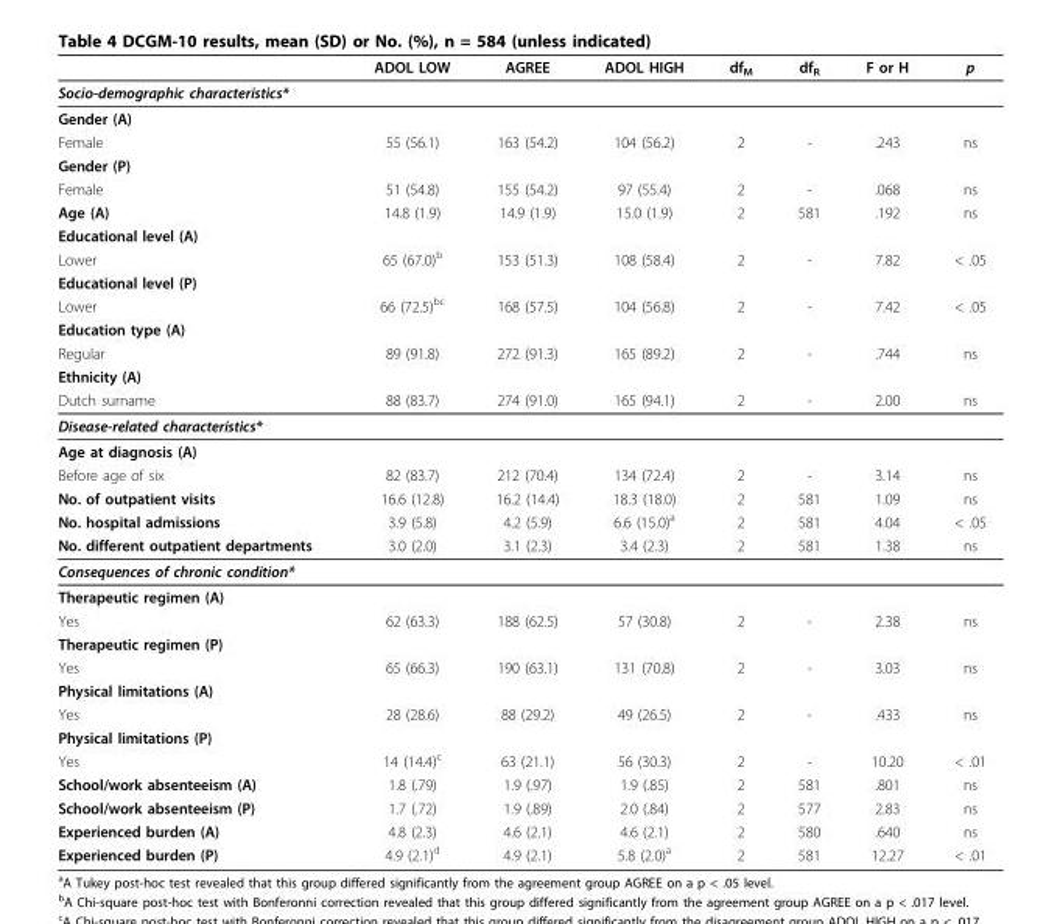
<table><thead><tr><td></td><td>ADOL LOW</td><td>AGREE</td><td>ADOL HIGH</td><td>df<sub>M</sub></td><td>df<sub>R</sub></td><td>F or H</td><td>p</td></tr></thead><tbody><tr><td colspan="8">Socio-demographic characteristics*</td></tr><tr><td colspan="8">Gender (A)</td></tr><tr><td>Female</td><td>55 (56.1)</td><td>163 (54.2)</td><td>104 (56.2)</td><td>2</td><td>-</td><td>.243</td><td>ns</td></tr><tr><td colspan="8">Gender (P)</td></tr><tr><td>Female</td><td>51 (54.8)</td><td>155 (54.2)</td><td>97 (55.4)</td><td>2</td><td>-</td><td>.068</td><td>ns</td></tr><tr><td>Age (A)</td><td>14.8 (1.9)</td><td>14.9 (1.9)</td><td>15.0 (1.9)</td><td>2</td><td>581</td><td>.192</td><td>ns</td></tr><tr><td colspan="8">Educational level (A)</td></tr><tr><td>Lower</td><td>65 (67.0)<sup>b</sup></td><td>153 (51.3)</td><td>108 (58.4)</td><td>2</td><td>-</td><td>7.82</td><td>&lt; .05</td></tr><tr><td colspan="8">Educational level (P)</td></tr><tr><td>Lower</td><td>66 (72.5)<sup>bc</sup></td><td>168 (57.5)</td><td>104 (56.8)</td><td>2</td><td>-</td><td>7.42</td><td>&lt; .05</td></tr><tr><td colspan="8">Education type (A)</td></tr><tr><td>Regular</td><td>89 (91.8)</td><td>272 (91.3)</td><td>165 (89.2)</td><td>2</td><td>-</td><td>.744</td><td>ns</td></tr><tr><td colspan="8">Ethnicity (A)</td></tr><tr><td>Dutch surname</td><td>88 (83.7)</td><td>274 (91.0)</td><td>165 (94.1)</td><td>2</td><td>-</td><td>2.00</td><td>ns</td></tr><tr><td colspan="8">Disease-related characteristics*</td></tr><tr><td colspan="8">Age at diagnosis (A)</td></tr><tr><td>Before age of six</td><td>82 (83.7)</td><td>212 (70.4)</td><td>134 (72.4)</td><td>2</td><td>-</td><td>3.14</td><td>ns</td></tr><tr><td>No. of outpatient visits</td><td>16.6 (12.8)</td><td>16.2 (14.4)</td><td>18.3 (18.0)</td><td>2</td><td>581</td><td>1.09</td><td>ns</td></tr><tr><td>No. hospital admissions</td><td>3.9 (5.8)</td><td>4.2 (5.9)</td><td>6.6 (15.0)<sup>a</sup></td><td>2</td><td>581</td><td>4.04</td><td>&lt; .05</td></tr><tr><td>No. different outpatient departments</td><td>3.0 (2.0)</td><td>3.1 (2.3)</td><td>3.4 (2.3)</td><td>2</td><td>581</td><td>1.38</td><td>ns</td></tr><tr><td colspan="8">Consequences of chronic condition*</td></tr><tr><td colspan="8">Therapeutic regimen (A)</td></tr><tr><td>Yes</td><td>62 (63.3)</td><td>188 (62.5)</td><td>57 (30.8)</td><td>2</td><td>-</td><td>2.38</td><td>ns</td></tr><tr><td colspan="8">Therapeutic regimen (P)</td></tr><tr><td>Yes</td><td>65 (66.3)</td><td>190 (63.1)</td><td>131 (70.8)</td><td>2</td><td>-</td><td>3.03</td><td>ns</td></tr><tr><td colspan="8">Physical limitations (A)</td></tr><tr><td>Yes</td><td>28 (28.6)</td><td>88 (29.2)</td><td>49 (26.5)</td><td>2</td><td>-</td><td>.433</td><td>ns</td></tr><tr><td colspan="8">Physical limitations (P)</td></tr><tr><td>Yes</td><td>14 (14.4)<sup>c</sup></td><td>63 (21.1)</td><td>56 (30.3)</td><td>2</td><td>-</td><td>10.20</td><td>&lt; .01</td></tr><tr><td>School/work absenteeism (A)</td><td>1.8 (.79)</td><td>1.9 (.97)</td><td>1.9 (.85)</td><td>2</td><td>581</td><td>.801</td><td>ns</td></tr><tr><td>School/work absenteeism (P)</td><td>1.7 (.72)</td><td>1.9 (.89)</td><td>2.0 (.84)</td><td>2</td><td>577</td><td>2.83</td><td>ns</td></tr><tr><td>Experienced burden (A)</td><td>4.8 (2.3)</td><td>4.6 (2.1)</td><td>4.6 (2.1)</td><td>2</td><td>580</td><td>.640</td><td>ns</td></tr><tr><td>Experienced burden (P)</td><td>4.9 (2.1)<sup>d</sup></td><td>4.9 (2.1)</td><td>5.8 (2.0)<sup>a</sup></td><td>2</td><td>581</td><td>12.27</td><td>&lt; .01</td></tr></tbody></table>